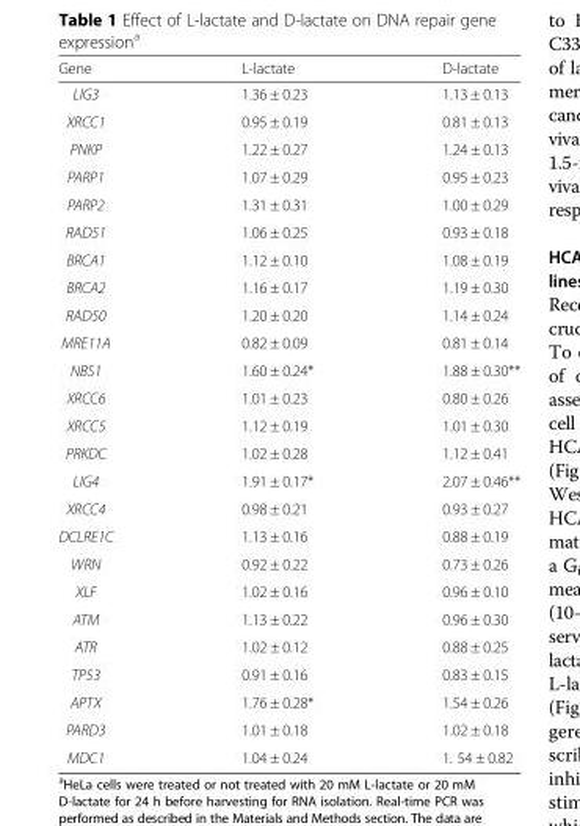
<table><thead><tr><td>Gene</td><td>L-lactate</td><td>D-lactate</td></tr></thead><tbody><tr><td>LIG3</td><td>1.36 ± 0.23</td><td>1.13 ± 0.13</td></tr><tr><td>XRCC1</td><td>0.95 ± 0.19</td><td>0.81 ± 0.13</td></tr><tr><td>PNKP</td><td>1.22 ± 0.27</td><td>1.24 ± 0.13</td></tr><tr><td>PARP1</td><td>1.07 ± 0.29</td><td>0.95 ± 0.23</td></tr><tr><td>PARP2</td><td>1.31 ± 0.31</td><td>1.00 ± 0.29</td></tr><tr><td>RAD51</td><td>1.06 ± 0.25</td><td>0.93 ± 0.18</td></tr><tr><td>BRCA1</td><td>1.12 ± 0.10</td><td>1.08 ± 0.19</td></tr><tr><td>BRCA2</td><td>1.16 ± 0.17</td><td>1.19 ± 0.30</td></tr><tr><td>RAD50</td><td>1.20 ± 0.20</td><td>1.14 ± 0.24</td></tr><tr><td>MRE11A</td><td>0.82 ± 0.09</td><td>0.81 ± 0.14</td></tr><tr><td>NBS1</td><td>1.60 ± 0.24*</td><td>1.88 ± 0.30**</td></tr><tr><td>XRCC6</td><td>1.01 ± 0.23</td><td>0.80 ± 0.26</td></tr><tr><td>XRCC5</td><td>1.12 ± 0.19</td><td>1.01 ± 0.30</td></tr><tr><td>PRKDC</td><td>1.02 ± 0.28</td><td>1.12 ± 0.41</td></tr><tr><td>LIG4</td><td>1.91 ± 0.17*</td><td>2.07 ± 0.46**</td></tr><tr><td>XRCC4</td><td>0.98 ± 0.21</td><td>0.93 ± 0.27</td></tr><tr><td>DCLRE1C</td><td>1.13 ± 0.16</td><td>0.88 ± 0.19</td></tr><tr><td>WRN</td><td>0.92 ± 0.22</td><td>0.73 ± 0.26</td></tr><tr><td>XLF</td><td>1.02 ± 0.16</td><td>0.96 ± 0.10</td></tr><tr><td>ATM</td><td>1.13 ± 0.22</td><td>0.96 ± 0.30</td></tr><tr><td>ATR</td><td>1.02 ± 0.12</td><td>0.88 ± 0.25</td></tr><tr><td>TP53</td><td>0.91 ± 0.16</td><td>0.83 ± 0.15</td></tr><tr><td>APTX</td><td>1.76 ± 0.28*</td><td>1.54 ± 0.26</td></tr><tr><td>PARD3</td><td>1.01 ± 0.18</td><td>1.02 ± 0.18</td></tr><tr><td>MDC1</td><td>1.04 ± 0.24</td><td>1. 54 ± 0.82</td></tr></tbody></table>